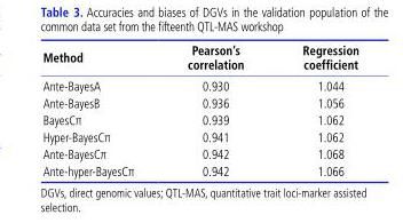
<table><thead><tr><td>Method</td><td>Pearson’s correlation</td><td>Regression coefficient</td></tr></thead><tbody><tr><td>Ante-BayesA</td><td>0.930</td><td>1.044</td></tr><tr><td>Ante-BayesB</td><td>0.936</td><td>1.056</td></tr><tr><td>BayesCπ</td><td>0.939</td><td>1.062</td></tr><tr><td>Hyper-BayesCπ</td><td>0.941</td><td>1.062</td></tr><tr><td>Ante-BayesCπ</td><td>0.942</td><td>1.068</td></tr><tr><td>Ante-hyper-BayesCπ</td><td>0.942</td><td>1.066</td></tr></tbody></table>